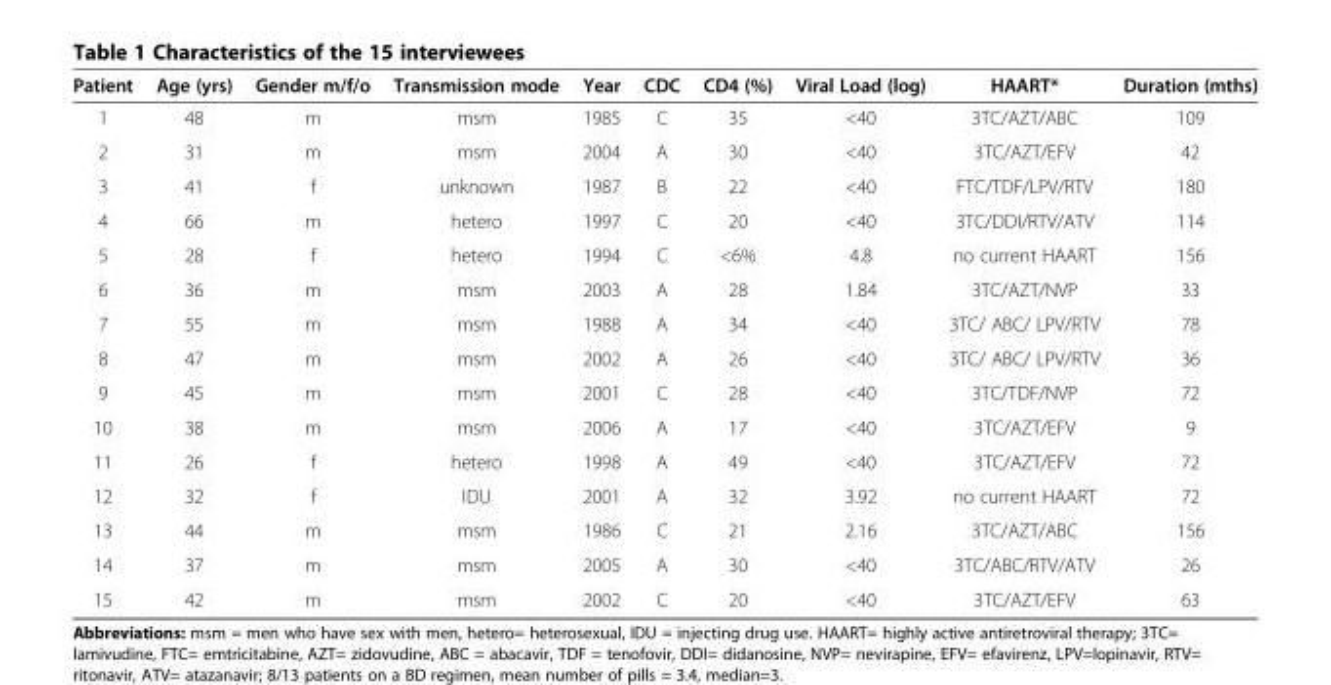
<table><thead><tr><td>Patient</td><td>Age (yrs)</td><td>Gender m/f/o</td><td>Transmission mode</td><td>Year</td><td>CDC</td><td>CD4 (%)</td><td>Viral Load (log)</td><td>HAART*</td><td>Duration (mths)</td></tr></thead><tbody><tr><td>1</td><td>48</td><td>m</td><td>msm</td><td>1985</td><td>C</td><td>35</td><td>&lt;40</td><td>3TC/AZT/ABC</td><td>109</td></tr><tr><td>2</td><td>31</td><td>m</td><td>msm</td><td>2004</td><td>A</td><td>30</td><td>&lt;40</td><td>3TC/AZT/EFV</td><td>42</td></tr><tr><td>3</td><td>41</td><td>f</td><td>unknown</td><td>1987</td><td>B</td><td>22</td><td>&lt;40</td><td>FTC/TDF/LPV/RTV</td><td>180</td></tr><tr><td>4</td><td>66</td><td>m</td><td>hetero</td><td>1997</td><td>C</td><td>20</td><td>&lt;40</td><td>3TC/DDI/RTV/ATV</td><td>114</td></tr><tr><td>5</td><td>28</td><td>f</td><td>hetero</td><td>1994</td><td>C</td><td>&lt;6%</td><td>4.8</td><td>no current HAART</td><td>156</td></tr><tr><td>6</td><td>36</td><td>m</td><td>msm</td><td>2003</td><td>A</td><td>28</td><td>1.84</td><td>3TC/AZT/NVP</td><td>33</td></tr><tr><td>7</td><td>55</td><td>m</td><td>msm</td><td>1988</td><td>A</td><td>34</td><td>&lt;40</td><td>3TC/ ABC/ LPV/RTV</td><td>78</td></tr><tr><td>8</td><td>47</td><td>m</td><td>msm</td><td>2002</td><td>A</td><td>26</td><td>&lt;40</td><td>3TC/ ABC/ LPV/RTV</td><td>36</td></tr><tr><td>9</td><td>45</td><td>m</td><td>msm</td><td>2001</td><td>C</td><td>28</td><td>&lt;40</td><td>3TC/TDF/NVP</td><td>72</td></tr><tr><td>10</td><td>38</td><td>m</td><td>msm</td><td>2006</td><td>A</td><td>17</td><td>&lt;40</td><td>3TC/AZT/EFV</td><td>9</td></tr><tr><td>11</td><td>26</td><td>f</td><td>hetero</td><td>1998</td><td>A</td><td>49</td><td>&lt;40</td><td>3TC/AZT/EFV</td><td>72</td></tr><tr><td>12</td><td>32</td><td>f</td><td>IDU</td><td>2001</td><td>A</td><td>32</td><td>3.92</td><td>no current HAART</td><td>72</td></tr><tr><td>13</td><td>44</td><td>m</td><td>msm</td><td>1986</td><td>C</td><td>21</td><td>2.16</td><td>3TC/AZT/ABC</td><td>156</td></tr><tr><td>14</td><td>37</td><td>m</td><td>msm</td><td>2005</td><td>A</td><td>30</td><td>&lt;40</td><td>3TC/ABC/RTV/ATV</td><td>26</td></tr><tr><td>15</td><td>42</td><td>m</td><td>msm</td><td>2002</td><td>C</td><td>20</td><td>&lt;40</td><td>3TC/AZT/EFV</td><td>63</td></tr></tbody></table>